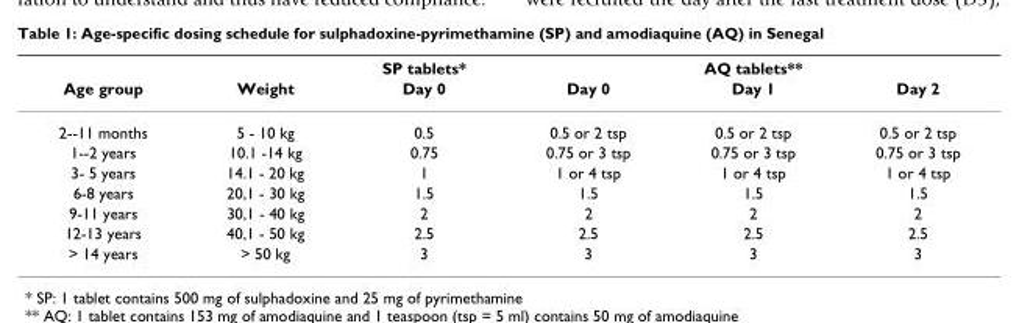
<table><thead><tr><td rowspan="2">Age group</td><td rowspan="2">Weight</td><td rowspan="2">SP tablets* Day 0</td><td colspan="3">AQ tablets**</td></tr><tr><td>Day 0</td><td>Day 1</td><td>Day 2</td></tr></thead><tbody><tr><td>2--11 months</td><td>5 - 10 kg</td><td>0.5</td><td>0.5 or 2 tsp</td><td>0.5 or 2 tsp</td><td>0.5 or 2 tsp</td></tr><tr><td>1--2 years</td><td>10.1 -14 kg</td><td>0.75</td><td>0.75 or 3 tsp</td><td>0.75 or 3 tsp</td><td>0.75 or 3 tsp</td></tr><tr><td>3- 5 years</td><td>14.1 - 20 kg</td><td>1</td><td>1 or 4 tsp</td><td>1 or 4 tsp</td><td>1 or 4 tsp</td></tr><tr><td>6-8 years</td><td>20,1 - 30 kg</td><td>1.5</td><td>1.5</td><td>1.5</td><td>1.5</td></tr><tr><td>9-11 years</td><td>30,1 - 40 kg</td><td>2</td><td>2</td><td>2</td><td>2</td></tr><tr><td>12-13 years</td><td>40,1 - 50 kg</td><td>2.5</td><td>2.5</td><td>2.5</td><td>2.5</td></tr><tr><td>&gt; 14 years</td><td>&gt; 50 kg</td><td>3</td><td>3</td><td>3</td><td>3</td></tr></tbody></table>